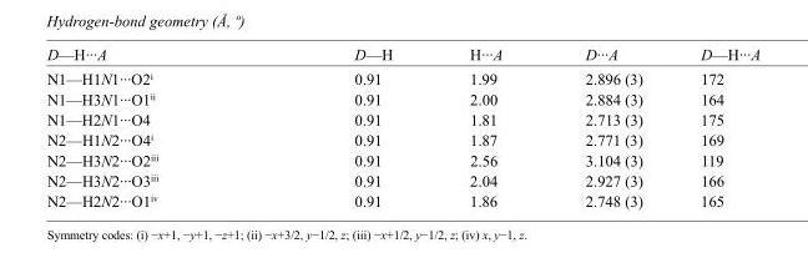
<table><tbody><tr><td>D—H···A</td><td>D—H</td><td>H···A</td><td>D···A</td><td>D—H···A</td></tr><tr><td>N1—H1N1···O2<sup>i</sup></td><td>0.91</td><td>1.99</td><td>2.896 (3)</td><td>172</td></tr><tr><td>N1—H3N1···O1<sup>ii</sup></td><td>0.91</td><td>2.00</td><td>2.884 (3)</td><td>164</td></tr><tr><td>N1—H2N1···O4</td><td>0.91</td><td>1.81</td><td>2.713 (3)</td><td>175</td></tr><tr><td>N2—H1N2···O4<sup>i</sup></td><td>0.91</td><td>1.87</td><td>2.771 (3)</td><td>169</td></tr><tr><td>N2—H3N2···O2<sup>iii</sup></td><td>0.91</td><td>2.56</td><td>3.104 (3)</td><td>119</td></tr><tr><td>N2—H3N2···O3<sup>iii</sup></td><td>0.91</td><td>2.04</td><td>2.927 (3)</td><td>166</td></tr><tr><td>N2—H2N2···O1<sup>iv</sup></td><td>0.91</td><td>1.86</td><td>2.748 (3)</td><td>165</td></tr></tbody></table>